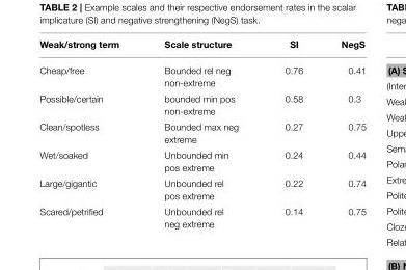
<table><thead><tr><td>Weak/strong term</td><td>Scale structure</td><td>SI</td><td>NegS</td></tr></thead><tbody><tr><td>Cheap/free</td><td>Bounded rel neg non-extreme</td><td>0.76</td><td>0.41</td></tr><tr><td>Possible/certain</td><td>bounded min pos non-extreme</td><td>0.58</td><td>0.3</td></tr><tr><td>Clean/spotless</td><td>Bounded max neg extreme</td><td>0.27</td><td>0.75</td></tr><tr><td>Wet/soaked</td><td>Unbounded min pos extreme</td><td>0.24</td><td>0.44</td></tr><tr><td>Large/gigantic</td><td>Unbounded rel pos extreme</td><td>0.22</td><td>0.74</td></tr><tr><td>Scared/petrified</td><td>Unbounded rel neg extreme</td><td>0.14</td><td>0.75</td></tr></tbody></table>